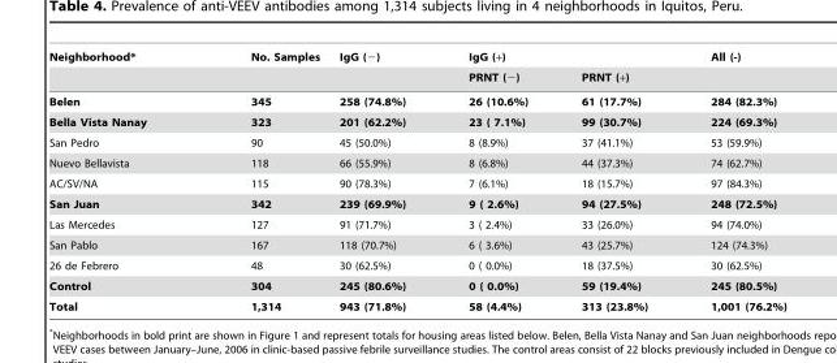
<table><thead><tr><td rowspan="2">Neighborhood*</td><td rowspan="2">No. Samples</td><td rowspan="2">IgG (−)</td><td colspan="2">IgG (+)</td><td rowspan="2">All (-)</td></tr><tr><td>PRNT (−)</td><td>PRNT (+)</td></tr></thead><tbody><tr><td>Belen</td><td>345</td><td>258 (74.8%)</td><td>26 (10.6%)</td><td>61 (17.7%)</td><td>284 (82.3%)</td></tr><tr><td>Bella Vista Nanay</td><td>323</td><td>201 (62.2%)</td><td>23 ( 7.1%)</td><td>99 (30.7%)</td><td>224 (69.3%)</td></tr><tr><td>San Pedro</td><td>90</td><td>45 (50.0%)</td><td>8 (8.9%)</td><td>37 (41.1%)</td><td>53 (59.9%)</td></tr><tr><td>Nuevo Bellavista</td><td>118</td><td>66 (55.9%)</td><td>8 (6.8%)</td><td>44 (37.3%)</td><td>74 (62.7%)</td></tr><tr><td>AC/SV/NA</td><td>115</td><td>90 (78.3%)</td><td>7 (6.1%)</td><td>18 (15.7%)</td><td>97 (84.3%)</td></tr><tr><td>San Juan</td><td>342</td><td>239 (69.9%)</td><td>9 ( 2.6%)</td><td>94 (27.5%)</td><td>248 (72.5%)</td></tr><tr><td>Las Mercedes</td><td>127</td><td>91 (71.7%)</td><td>3 ( 2.4%)</td><td>33 (26.0%)</td><td>94 (74.0%)</td></tr><tr><td>San Pablo</td><td>167</td><td>118 (70.7%)</td><td>6 ( 3.6%)</td><td>43 (25.7%)</td><td>124 (74.3%)</td></tr><tr><td>26 de Febrero</td><td>48</td><td>30 (62.5%)</td><td>0 ( 0.0%)</td><td>18 (37.5%)</td><td>30 (62.5%)</td></tr><tr><td>Control</td><td>304</td><td>245 (80.6%)</td><td>0 ( 0.0%)</td><td>59 (19.4%)</td><td>245 (80.5%)</td></tr><tr><td>Total</td><td>1,314</td><td>943 (71.8%)</td><td>58 (4.4%)</td><td>313 (23.8%)</td><td>1,001 (76.2%)</td></tr></tbody></table>